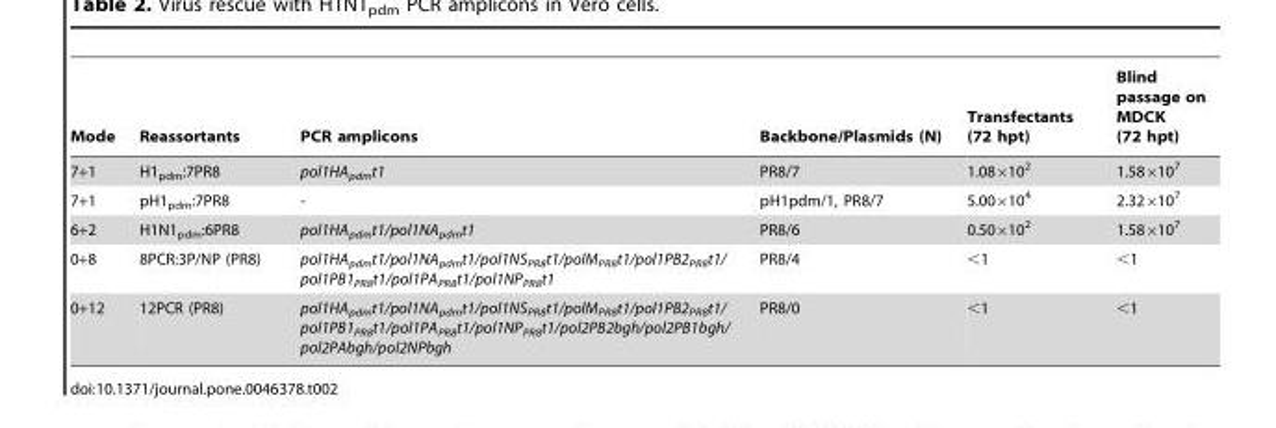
<table><thead><tr><td>Mode</td><td>Reassortants</td><td>PCR amplicons</td><td>Backbone/Plasmids (N)</td><td>Transfectants (72 hpt)</td><td>Blind passage on MDCK (72 hpt)</td></tr></thead><tbody><tr><td>7+1</td><td>H1<sub>pdm</sub>:7PR8</td><td>pol1HA<sub>pdm</sub>t1</td><td>PR8/7</td><td>1.08×10<sup>2</sup></td><td>1.58×10<sup>7</sup></td></tr><tr><td>7+1</td><td>pH1<sub>pdm</sub>:7PR8</td><td>-</td><td>pH1pdm/1, PR8/7</td><td>5.00×10<sup>4</sup></td><td>2.32×10<sup>7</sup></td></tr><tr><td>6+2</td><td>H1N1<sub>pdm</sub>:6PR8</td><td>pol1HA<sub>pdm</sub>t1/pol1NA<sub>pdm</sub>t1</td><td>PR8/6</td><td>0.50×10<sup>2</sup></td><td>1.58×10<sup>7</sup></td></tr><tr><td>0+8</td><td>8PCR:3P/NP (PR8)</td><td>pol1HA<sub>pdm</sub>t1/pol1NA<sub>pdm</sub>t1/pol1NS<sub>PR8</sub>t1/polM<sub>PR8</sub>t1/pol1PB2<sub>PR8</sub>t1/ pol1PB1<sub>PR8</sub>t1/pol1PA<sub>PR8</sub>t1/pol1NP<sub>PR8</sub>t1</td><td>PR8/4</td><td>&lt;1</td><td>&lt;1</td></tr><tr><td>0+12</td><td>12PCR (PR8)</td><td>pol1HA<sub>pdm</sub>t1/pol1NA<sub>pdm</sub>t1/pol1NS<sub>PR8</sub>t1/polM<sub>PR8</sub>t1/pol1PB2<sub>PR8</sub>t1/ pol1PB1<sub>PR8</sub>t1/pol1PA<sub>PR8</sub>t1/pol1NP<sub>PR8</sub>t1/pol2PB2bgh/pol2PB1bgh/ pol2PAbgh/pol2NPbgh</td><td>PR8/0</td><td>&lt;1</td><td>&lt;1</td></tr></tbody></table>